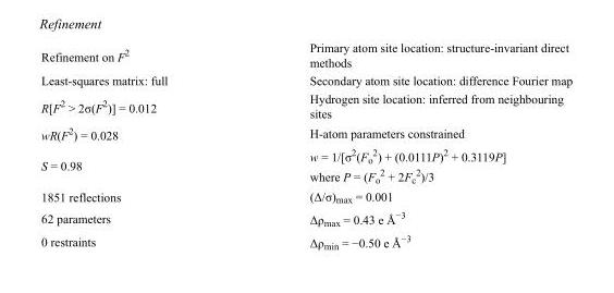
<table><tbody><tr><td>Refinement on F<sup>2</sup></td><td>Primary atom site location: structure-invariant direct methods</td></tr><tr><td>Least-squares matrix: full</td><td>Secondary atom site location: difference Fourier map</td></tr><tr><td>R[F<sup>2</sup> &gt; 2σ(F<sup>2</sup>)] = 0.012</td><td>Hydrogen site location: inferred from neighbouring sites</td></tr><tr><td>wR(F<sup>2</sup>) = 0.028</td><td>H-atom parameters constrained</td></tr><tr><td>S = 0.98</td><td>w = 1/[σ<sup>2</sup>(F<sub>o</sub> <sup>2</sup>) + (0.0111P)<sup>2</sup> + 0.3119P] where P = (F<sub>o</sub> <sup>2</sup> + 2F<sub>c</sub> <sup>2</sup>)/3</td></tr><tr><td>1851 reflections</td><td>(Δ/σ)<sub>max</sub> = 0.001</td></tr><tr><td>62 parameters</td><td>Δρ<sub>max</sub> = 0.43 e Å<sup>−3</sup></td></tr><tr><td>0 restraints</td><td>Δρ<sub>min</sub> = −0.50 e Å<sup>−3</sup></td></tr></tbody></table>